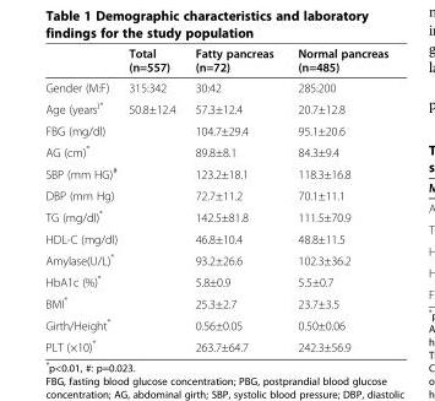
<table><thead><tr><td></td><td>Total (n=557)</td><td>Fatty pancreas (n=72)</td><td>Normal pancreas (n=485)</td></tr></thead><tbody><tr><td>Gender (M:F)</td><td>315:342</td><td>30:42</td><td>285:200</td></tr><tr><td>Age (years<sup>)*</sup></td><td>50.8±12.4</td><td>57.3±12.4</td><td>20.7±12.8</td></tr><tr><td>FBG (mg/dl)</td><td></td><td>104.7±29.4</td><td>95.1±20.6</td></tr><tr><td>AG (cm)*</td><td></td><td>89.8±8.1</td><td>84.3±9.4</td></tr><tr><td>SBP (mm HG)<sup>#</sup></td><td></td><td>123.2±18.1</td><td>118.3±16.8</td></tr><tr><td>DBP (mm Hg)</td><td></td><td>72.7±11.2</td><td>70.1±11.1</td></tr><tr><td>TG (mg/dl)*</td><td></td><td>142.5±81.8</td><td>111.5±70.9</td></tr><tr><td>HDL-C (mg/dl)</td><td></td><td>46.8±10.4</td><td>48.8±11.5</td></tr><tr><td>Amylase(U/L)*</td><td></td><td>93.2±26.6</td><td>102.3±36.2</td></tr><tr><td>HbA1c (%)*</td><td></td><td>5.8±0.9</td><td>5.5±0.7</td></tr><tr><td>BMI*</td><td></td><td>25.3±2.7</td><td>23.7±3.5</td></tr><tr><td>Girth/Height*</td><td></td><td>0.56±0.05</td><td>0.50±0.06</td></tr><tr><td>PLT (×10)*</td><td></td><td>263.7±64.7</td><td>242.3±56.9</td></tr></tbody></table>